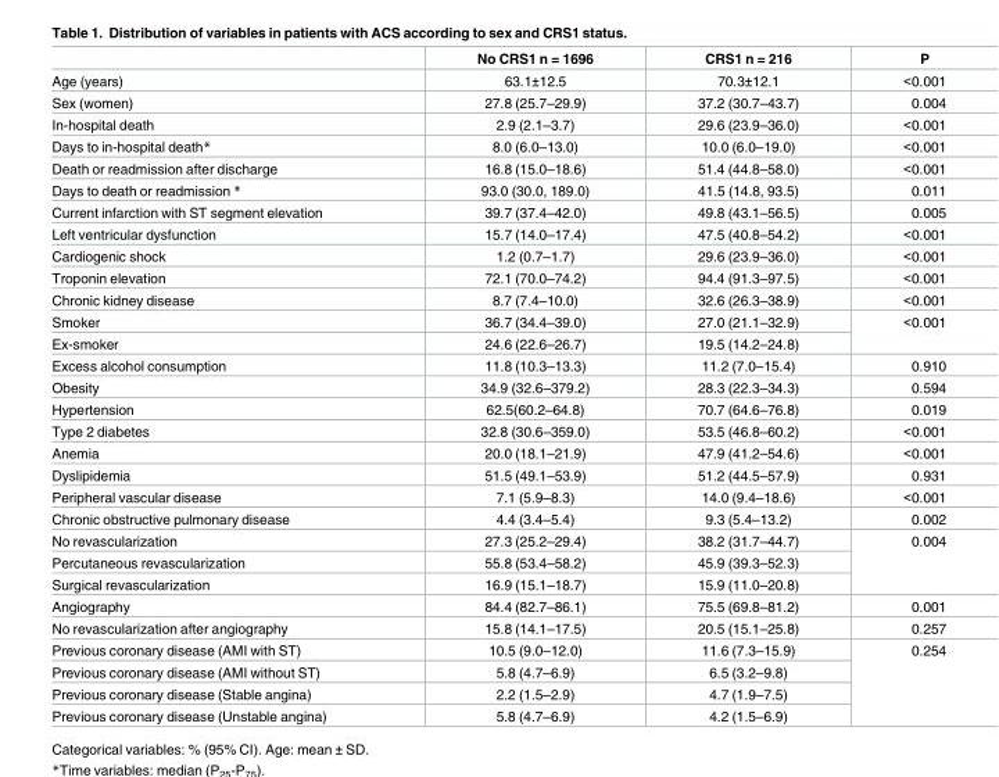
<table><thead><tr><td></td><td>No CRS1 n = 1696</td><td>CRS1 n = 216</td><td>P</td></tr></thead><tbody><tr><td>Age (years)</td><td>63.1±12.5</td><td>70.3±12.1</td><td>&lt;0.001</td></tr><tr><td>Sex (women)</td><td>27.8 (25.7–29.9)</td><td>37.2 (30.7–43.7)</td><td>0.004</td></tr><tr><td>In-hospital death</td><td>2.9 (2.1–3.7)</td><td>29.6 (23.9–36.0)</td><td>&lt;0.001</td></tr><tr><td>Days to in-hospital death*</td><td>8.0 (6.0–13.0)</td><td>10.0 (6.0–19.0)</td><td>&lt;0.001</td></tr><tr><td>Death or readmission after discharge</td><td>16.8 (15.0–18.6)</td><td>51.4 (44.8–58.0)</td><td>&lt;0.001</td></tr><tr><td>Days to death or readmission *</td><td>93.0 (30.0, 189.0)</td><td>41.5 (14.8, 93.5)</td><td>0.011</td></tr><tr><td>Current infarction with ST segment elevation</td><td>39.7 (37.4–42.0)</td><td>49.8 (43.1–56.5)</td><td>0.005</td></tr><tr><td>Left ventricular dysfunction</td><td>15.7 (14.0–17.4)</td><td>47.5 (40.8–54.2)</td><td>&lt;0.001</td></tr><tr><td>Cardiogenic shock</td><td>1.2 (0.7–1.7)</td><td>29.6 (23.9–36.0)</td><td>&lt;0.001</td></tr><tr><td>Troponin elevation</td><td>72.1 (70.0–74.2)</td><td>94.4 (91.3–97.5)</td><td>&lt;0.001</td></tr><tr><td>Chronic kidney disease</td><td>8.7 (7.4–10.0)</td><td>32.6 (26.3–38.9)</td><td>&lt;0.001</td></tr><tr><td>Smoker</td><td>36.7 (34.4–39.0)</td><td>27.0 (21.1–32.9)</td><td rowspan="2">&lt;0.001</td></tr><tr><td>Ex-smoker</td><td>24.6 (22.6–26.7)</td><td>19.5 (14.2–24.8)</td></tr><tr><td>Excess alcohol consumption</td><td>11.8 (10.3–13.3)</td><td>11.2 (7.0–15.4)</td><td>0.910</td></tr><tr><td>Obesity</td><td>34.9 (32.6–379.2)</td><td>28.3 (22.3–34.3)</td><td>0.594</td></tr><tr><td>Hypertension</td><td>62.5(60.2–64.8)</td><td>70.7 (64.6–76.8)</td><td>0.019</td></tr><tr><td>Type 2 diabetes</td><td>32.8 (30.6–359.0)</td><td>53.5 (46.8–60.2)</td><td>&lt;0.001</td></tr><tr><td>Anemia</td><td>20.0 (18.1–21.9)</td><td>47.9 (41.2–54.6)</td><td>&lt;0.001</td></tr><tr><td>Dyslipidemia</td><td>51.5 (49.1–53.9)</td><td>51.2 (44.5–57.9)</td><td>0.931</td></tr><tr><td>Peripheral vascular disease</td><td>7.1 (5.9–8.3)</td><td>14.0 (9.4–18.6)</td><td>&lt;0.001</td></tr><tr><td>Chronic obstructive pulmonary disease</td><td>4.4 (3.4–5.4)</td><td>9.3 (5.4–13.2)</td><td>0.002</td></tr><tr><td>No revascularization</td><td>27.3 (25.2–29.4)</td><td>38.2 (31.7–44.7)</td><td rowspan="3">0.004</td></tr><tr><td>Percutaneous revascularization</td><td>55.8 (53.4–58.2)</td><td>45.9 (39.3–52.3)</td></tr><tr><td>Surgical revascularization</td><td>16.9 (15.1–18.7)</td><td>15.9 (11.0–20.8)</td></tr><tr><td>Angiography</td><td>84.4 (82.7–86.1)</td><td>75.5 (69.8–81.2)</td><td>0.001</td></tr><tr><td>No revascularization after angiography</td><td>15.8 (14.1–17.5)</td><td>20.5 (15.1–25.8)</td><td>0.257</td></tr><tr><td>Previous coronary disease (AMI with ST)</td><td>10.5 (9.0–12.0)</td><td>11.6 (7.3–15.9)</td><td rowspan="4">0.254</td></tr><tr><td>Previous coronary disease (AMI without ST)</td><td>5.8 (4.7–6.9)</td><td>6.5 (3.2–9.8)</td></tr><tr><td>Previous coronary disease (Stable angina)</td><td>2.2 (1.5–2.9)</td><td>4.7 (1.9–7.5)</td></tr><tr><td>Previous coronary disease (Unstable angina)</td><td>5.8 (4.7–6.9)</td><td>4.2 (1.5–6.9)</td></tr></tbody></table>